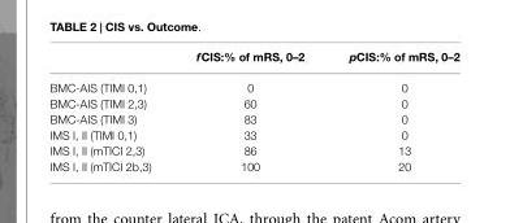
<table><thead><tr><td></td><td>fCIS:% of mRS, 0–2</td><td>pCIS:% of mRS, 0–2</td></tr></thead><tbody><tr><td>BMC-AIS (TIMI 0,1)</td><td>0</td><td>0</td></tr><tr><td>BMC-AIS (TIMI 2,3)</td><td>60</td><td>0</td></tr><tr><td>BMC-AIS (TIMI 3)</td><td>83</td><td>0</td></tr><tr><td>IMS I, II (TIMI 0,1)</td><td>33</td><td>0</td></tr><tr><td>IMS I, II (mTICI 2,3)</td><td>86</td><td>13</td></tr><tr><td>IMS I, II (mTICI 2b,3)</td><td>100</td><td>20</td></tr></tbody></table>